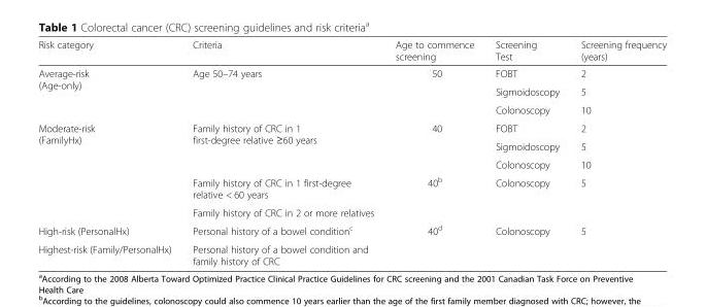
<table><thead><tr><td>Risk category</td><td>Criteria</td><td>Age to commence screening</td><td>Screening Test</td><td>Screening frequency (years)</td></tr></thead><tbody><tr><td rowspan="3">Average-risk (Age-only)</td><td rowspan="3">Age 50–74 years</td><td rowspan="3">50</td><td>FOBT</td><td>2</td></tr><tr><td>Sigmoidoscopy</td><td>5</td></tr><tr><td>Colonoscopy</td><td>10</td></tr><tr><td rowspan="5">Moderate-risk (FamilyHx)</td><td rowspan="3">Family history of CRC in 1 first-degree relative ≥60 years</td><td rowspan="3">40</td><td>FOBT</td><td>2</td></tr><tr><td>Sigmoidoscopy</td><td>5</td></tr><tr><td>Colonoscopy</td><td>10</td></tr><tr><td>Family history of CRC in 1 first-degree relative &lt; 60 years</td><td rowspan="2">40<sup>b</sup></td><td rowspan="2">Colonoscopy</td><td rowspan="2">5</td></tr><tr><td>Family history of CRC in 2 or more relatives</td></tr><tr><td>High-risk (PersonalHx)</td><td>Personal history of a bowel condition<sup>c</sup></td><td rowspan="2">40<sup>d</sup></td><td rowspan="2">Colonoscopy</td><td rowspan="2">5</td></tr><tr><td>Highest-risk (Family/PersonalHx)</td><td>Personal history of a bowel condition and family history of CRC</td></tr></tbody></table>